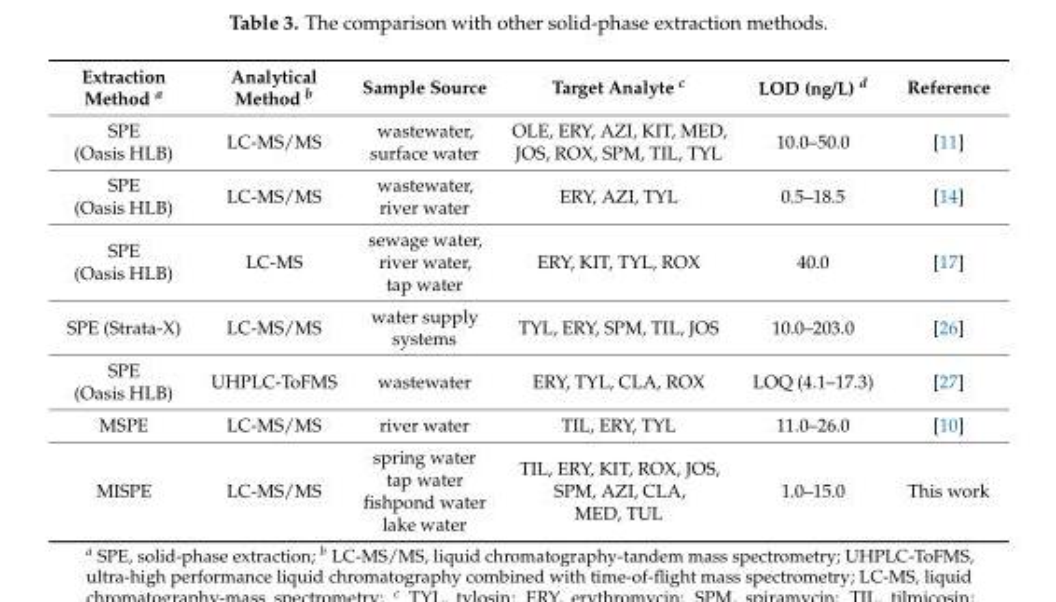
<table><thead><tr><td>Extraction Method <sup>a</sup></td><td>Analytical Method <sup>b</sup></td><td>Sample Source</td><td>Target Analyte <sup>c</sup></td><td>LOD (ng/L) <sup>d</sup></td><td>Reference</td></tr></thead><tbody><tr><td>SPE (Oasis HLB)</td><td>LC-MS/MS</td><td>wastewater, surface water</td><td>OLE, ERY, AZI, KIT, MED, JOS, ROX, SPM, TIL, TYL</td><td>10.0–50.0</td><td>[11]</td></tr><tr><td>SPE (Oasis HLB)</td><td>LC-MS/MS</td><td>wastewater, river water</td><td>ERY, AZI, TYL</td><td>0.5–18.5</td><td>[14]</td></tr><tr><td>SPE (Oasis HLB)</td><td>LC-MS</td><td>sewage water, river water, tap water</td><td>ERY, KIT, TYL, ROX</td><td>40.0</td><td>[17]</td></tr><tr><td>SPE (Strata-X)</td><td>LC-MS/MS</td><td>water supply systems</td><td>TYL, ERY, SPM, TIL, JOS</td><td>10.0–203.0</td><td>[26]</td></tr><tr><td>SPE (Oasis HLB)</td><td>UHPLC-ToFMS</td><td>wastewater</td><td>ERY, TYL, CLA, ROX</td><td>LOQ (4.1–17.3)</td><td>[27]</td></tr><tr><td>MSPE</td><td>LC-MS/MS</td><td>river water</td><td>TIL, ERY, TYL</td><td>11.0–26.0</td><td>[10]</td></tr><tr><td>MISPE</td><td>LC-MS/MS</td><td>spring water tap water fishpond water lake water</td><td>TIL, ERY, KIT, ROX, JOS, SPM, AZI, CLA, MED, TUL</td><td>1.0–15.0</td><td>This work</td></tr></tbody></table>